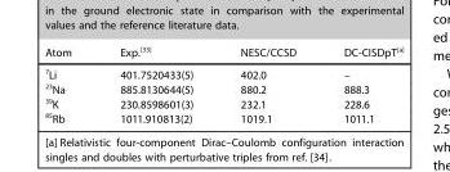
<table><thead><tr><td>Atom</td><td>Exp.[33]</td><td>NESC/CCSD</td><td>DC-CISDpT[a]</td></tr></thead><tbody><tr><td><sup>7</sup>Li</td><td>401.7520433(5)</td><td>402.0</td><td>–</td></tr><tr><td><sup>23</sup>Na</td><td>885.8130644(5)</td><td>880.2</td><td>888.3</td></tr><tr><td><sup>39</sup>K</td><td>230.8598601(3)</td><td>232.1</td><td>228.6</td></tr><tr><td><sup>85</sup>Rb</td><td>1011.910813(2)</td><td>1019.1</td><td>1011.1</td></tr></tbody></table>